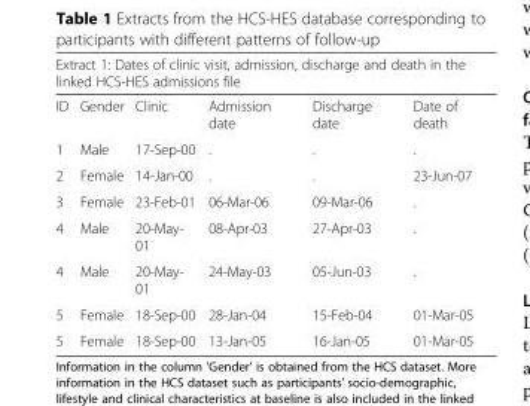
<table><thead><tr><td colspan="6">Extract 1: Dates of clinic visit, admission, discharge and death in the linked HCS-HES admissions file</td></tr><tr><td>ID</td><td>Gender</td><td>Clinic</td><td>Admission date</td><td>Discharge date</td><td>Date of death</td></tr></thead><tbody><tr><td>1</td><td>Male</td><td>17-Sep-00</td><td>.</td><td>.</td><td>.</td></tr><tr><td>2</td><td>Female</td><td>14-Jan-00</td><td>.</td><td>.</td><td>23-Jun-07</td></tr><tr><td>3</td><td>Female</td><td>23-Feb-01</td><td>06-Mar-06</td><td>09-Mar-06</td><td>.</td></tr><tr><td>4</td><td>Male</td><td>20-May- 01</td><td>08-Apr-03</td><td>27-Apr-03</td><td>.</td></tr><tr><td>4</td><td>Male</td><td>20-May- 01</td><td>24-May-03</td><td>05-Jun-03</td><td>.</td></tr><tr><td>5</td><td>Female</td><td>18-Sep-00</td><td>28-Jan-04</td><td>15-Feb-04</td><td>01-Mar-05</td></tr><tr><td>5</td><td>Female</td><td>18-Sep-00</td><td>13-Jan-05</td><td>16-Jan-05</td><td>01-Mar-05</td></tr></tbody></table>